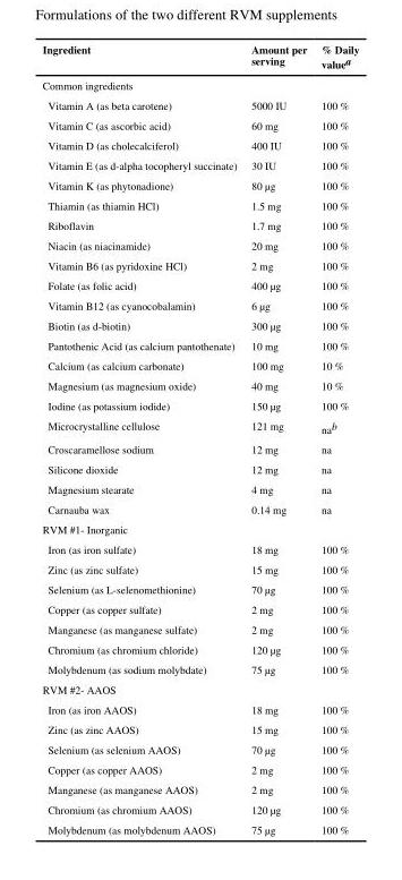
<table><thead><tr><td>Ingredient</td><td>Amount per serving</td><td>% Daily value<sup>a</sup></td></tr></thead><tbody><tr><td colspan="3">Common ingredients</td></tr><tr><td>Vitamin A (as beta carotene)</td><td>5000 IU</td><td>100 %</td></tr><tr><td>Vitamin C (as ascorbic acid)</td><td>60 mg</td><td>100 %</td></tr><tr><td>Vitamin D (as cholecalciferol)</td><td>400 IU</td><td>100 %</td></tr><tr><td>Vitamin E (as d-alpha tocopheryl succinate)</td><td>30 IU</td><td>100 %</td></tr><tr><td>Vitamin K (as phytonadione)</td><td>80 µg</td><td>100 %</td></tr><tr><td>Thiamin (as thiamin HCl)</td><td>1.5 mg</td><td>100 %</td></tr><tr><td>Riboflavin</td><td>1.7 mg</td><td>100 %</td></tr><tr><td>Niacin (as niacinamide)</td><td>20 mg</td><td>100 %</td></tr><tr><td>Vitamin B6 (as pyridoxine HCl)</td><td>2 mg</td><td>100 %</td></tr><tr><td>Folate (as folic acid)</td><td>400 µg</td><td>100 %</td></tr><tr><td>Vitamin B12 (as cyanocobalamin)</td><td>6 µg</td><td>100 %</td></tr><tr><td>Biotin (as d-biotin)</td><td>300 µg</td><td>100 %</td></tr><tr><td>Pantothenic Acid (as calcium pantothenate)</td><td>10 mg</td><td>100 %</td></tr><tr><td>Calcium (as calcium carbonate)</td><td>100 mg</td><td>10 %</td></tr><tr><td>Magnesium (as magnesium oxide)</td><td>40 mg</td><td>10 %</td></tr><tr><td>Iodine (as potassium iodide)</td><td>150 µg</td><td>100 %</td></tr><tr><td>Microcrystalline cellulose</td><td>121 mg</td><td>na<sup>b</sup></td></tr><tr><td>Croscaramellose sodium</td><td>12 mg</td><td>na</td></tr><tr><td>Silicone dioxide</td><td>12 mg</td><td>na</td></tr><tr><td>Magnesium stearate</td><td>4 mg</td><td>na</td></tr><tr><td>Carnauba wax</td><td>0.14 mg</td><td>na</td></tr><tr><td colspan="3">RVM #1- Inorganic</td></tr><tr><td>Iron (as iron sulfate)</td><td>18 mg</td><td>100 %</td></tr><tr><td>Zinc (as zinc sulfate)</td><td>15 mg</td><td>100 %</td></tr><tr><td>Selenium (as L-selenomethionine)</td><td>70 µg</td><td>100 %</td></tr><tr><td>Copper (as copper sulfate)</td><td>2 mg</td><td>100 %</td></tr><tr><td>Manganese (as manganese sulfate)</td><td>2 mg</td><td>100 %</td></tr><tr><td>Chromium (as chromium chloride)</td><td>120 µg</td><td>100 %</td></tr><tr><td>Molybdenum (as sodium molybdate)</td><td>75 µg</td><td>100 %</td></tr><tr><td colspan="3">RVM #2- AAOS</td></tr><tr><td>Iron (as iron AAOS)</td><td>18 mg</td><td>100 %</td></tr><tr><td>Zinc (as zinc AAOS)</td><td>15 mg</td><td>100 %</td></tr><tr><td>Selenium (as selenium AAOS)</td><td>70 µg</td><td>100 %</td></tr><tr><td>Copper (as copper AAOS)</td><td>2 mg</td><td>100 %</td></tr><tr><td>Manganese (as manganese AAOS)</td><td>2 mg</td><td>100 %</td></tr><tr><td>Chromium (as chromium AAOS)</td><td>120 µg</td><td>100 %</td></tr><tr><td>Molybdenum (as molybdenum AAOS)</td><td>75 µg</td><td>100 %</td></tr></tbody></table>